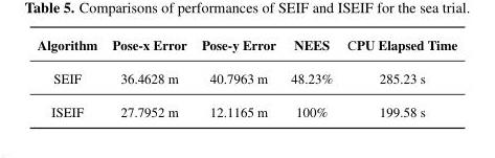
<table><thead><tr><td>Algorithm</td><td>Pose-x Error</td><td>Pose-y Error</td><td>NEES</td><td>CPU Elapsed Time</td></tr></thead><tbody><tr><td>SEIF</td><td>36.4628 m</td><td>40.7963 m</td><td>48.23%</td><td>285.23 s</td></tr><tr><td>ISEIF</td><td>27.7952 m</td><td>12.1165 m</td><td>100%</td><td>199.58 s</td></tr></tbody></table>